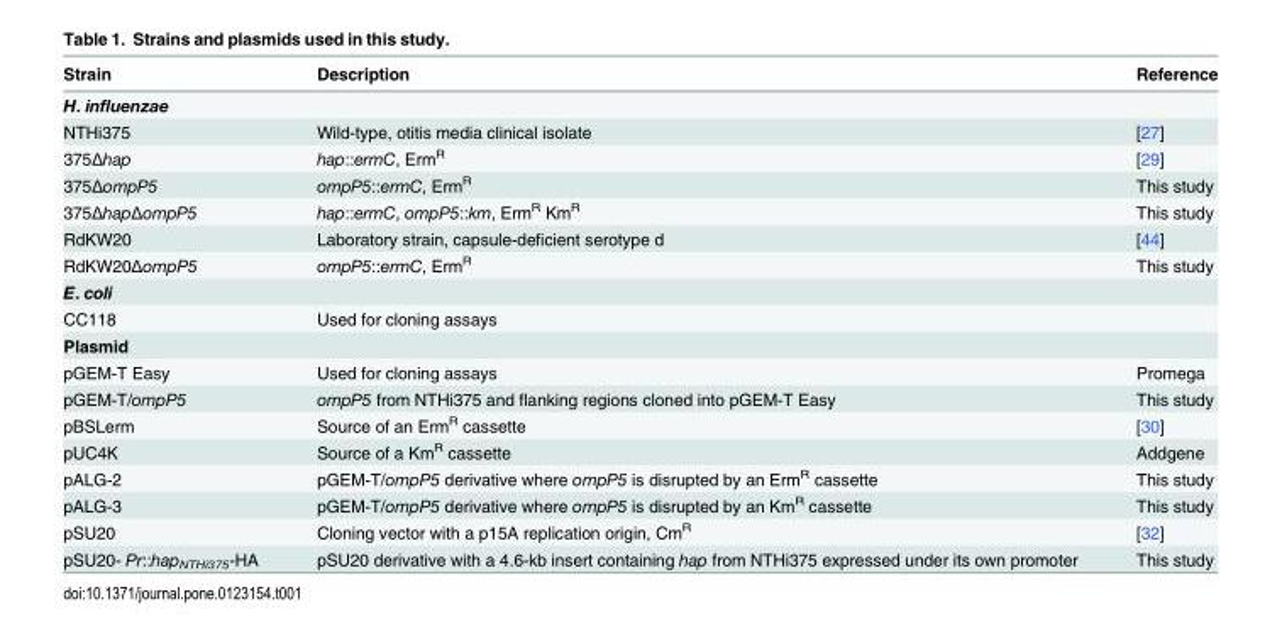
<table><thead><tr><td>Strain</td><td>Description</td><td>Reference</td></tr></thead><tbody><tr><td colspan="3">H. influenzae</td></tr><tr><td>NTHi375</td><td>Wild-type, otitis media clinical isolate</td><td>[27]</td></tr><tr><td>375Δhap</td><td>hap::ermC, Erm<sup>R</sup></td><td>[29]</td></tr><tr><td>375ΔompP5</td><td>ompP5::ermC, Erm<sup>R</sup></td><td>This study</td></tr><tr><td>375ΔhapΔompP5</td><td>hap::ermC, ompP5::km, Erm<sup>R</sup> Km<sup>R</sup></td><td>This study</td></tr><tr><td>RdKW20</td><td>Laboratory strain, capsule-deficient serotype d</td><td>[44]</td></tr><tr><td>RdKW20ΔompP5</td><td>ompP5::ermC, Erm<sup>R</sup></td><td>This study</td></tr><tr><td colspan="3">E. coli</td></tr><tr><td>CC118</td><td>Used for cloning assays</td><td></td></tr><tr><td colspan="3">Plasmid</td></tr><tr><td>pGEM-T Easy</td><td>Used for cloning assays</td><td>Promega</td></tr><tr><td>pGEM-T/ompP5</td><td>ompP5 from NTHi375 and flanking regions cloned into pGEM-T Easy</td><td>This study</td></tr><tr><td>pBSLerm</td><td>Source of an Erm<sup>R</sup> cassette</td><td>[30]</td></tr><tr><td>pUC4K</td><td>Source of a Km<sup>R</sup> cassette</td><td>Addgene</td></tr><tr><td>pALG-2</td><td>pGEM-T/ompP5 derivative where ompP5 is disrupted by an Erm<sup>R</sup> cassette</td><td>This study</td></tr><tr><td>pALG-3</td><td>pGEM-T/ompP5 derivative where ompP5 is disrupted by an Km<sup>R</sup> cassette</td><td>This study</td></tr><tr><td>pSU20</td><td>Cloning vector with a p15A replication origin, Cm<sup>R</sup></td><td>[32]</td></tr><tr><td>pSU20- Pr::hap<sub>NTHi375</sub>-HA</td><td>pSU20 derivative with a 4.6-kb insert containing hap from NTHi375 expressed under its own promoter</td><td>This study</td></tr></tbody></table>